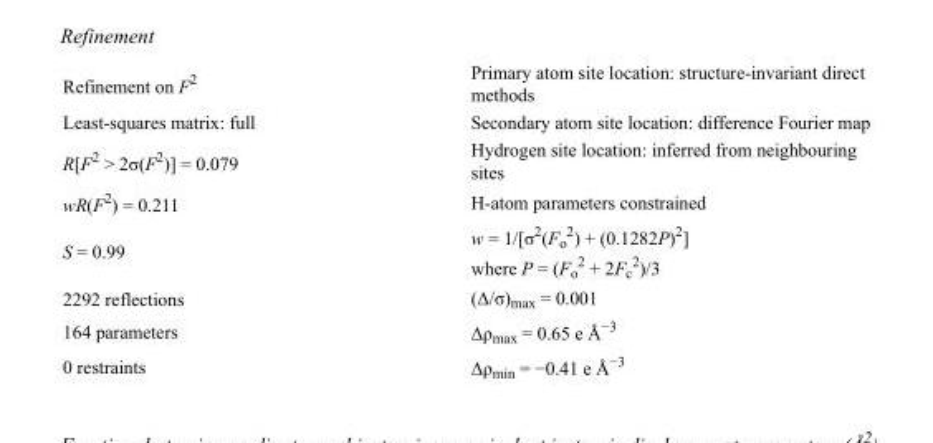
<table><tbody><tr><td>Refinement on F<sup>2</sup></td><td>Primary atom site location: structure-invariant direct methods</td></tr><tr><td>Least-squares matrix: full</td><td>Secondary atom site location: difference Fourier map</td></tr><tr><td>R[F<sup>2</sup> &gt; 2σ(F<sup>2</sup>)] = 0.079</td><td>Hydrogen site location: inferred from neighbouring sites</td></tr><tr><td>wR(F<sup>2</sup>) = 0.211</td><td>H-atom parameters constrained</td></tr><tr><td>S = 0.99</td><td>w = 1/[σ<sup>2</sup>(F<sub>o</sub> <sup>2</sup>) + (0.1282P)<sup>2</sup>] where P = (F<sub>o</sub> <sup>2</sup> + 2F<sub>c</sub> <sup>2</sup>)/3</td></tr><tr><td>2292 reflections</td><td>(Δ/σ)<sub>max</sub> = 0.001</td></tr><tr><td>164 parameters</td><td>Δρ<sub>max</sub> = 0.65 e Å<sup>−3</sup></td></tr><tr><td>0 restraints</td><td>Δρ<sub>min</sub> = −0.41 e Å<sup>−3</sup></td></tr></tbody></table>